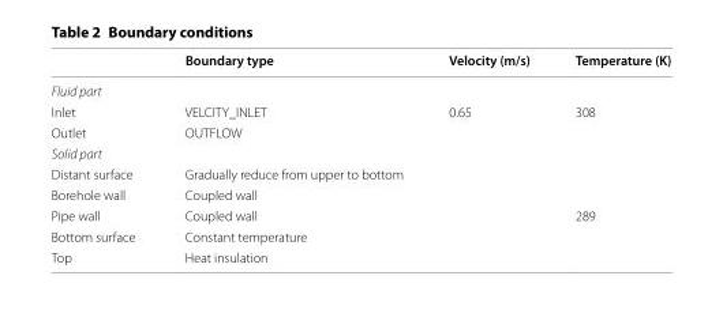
<table><thead><tr><td></td><td>Boundary type</td><td>Velocity (m/s)</td><td>Temperature (K)</td></tr></thead><tbody><tr><td colspan="4">Fluid part</td></tr><tr><td>Inlet</td><td>VELCITY_INLET</td><td>0.65</td><td>308</td></tr><tr><td>Outlet</td><td>OUTFLOW</td><td></td><td></td></tr><tr><td colspan="4">Solid part</td></tr><tr><td>Distant surface</td><td>Gradually reduce from upper to bottom</td><td></td><td></td></tr><tr><td>Borehole wall</td><td>Coupled wall</td><td></td><td></td></tr><tr><td>Pipe wall</td><td>Coupled wall</td><td></td><td>289</td></tr><tr><td>Bottom surface</td><td>Constant temperature</td><td></td><td></td></tr><tr><td>Top</td><td>Heat insulation</td><td></td><td></td></tr></tbody></table>